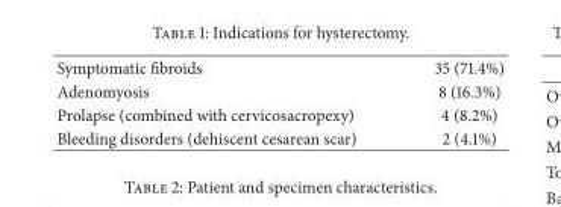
<table><tbody><tr><td>Symptomatic fibroids</td><td>35 (71.4%)</td></tr><tr><td>Adenomyosis</td><td>8 (16.3%)</td></tr><tr><td>Prolapse (combined with cervicosacropexy)</td><td>4 (8.2%)</td></tr><tr><td>Bleeding disorders (dehiscent cesarean scar)</td><td>2 (4.1%)</td></tr></tbody></table>